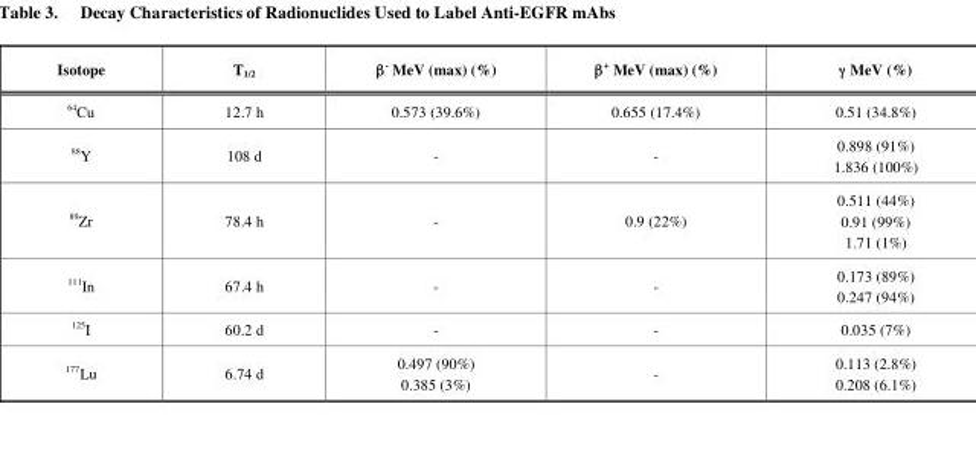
<table><thead><tr><td>Isotope</td><td>T<sub>1/2</sub></td><td>β<sup>-</sup> MeV (max) (%)</td><td>β<sup>+</sup> MeV (max) (%)</td><td>γ MeV (%)</td></tr></thead><tbody><tr><td><sup>64</sup>Cu</td><td>12.7 h</td><td>0.573 (39.6%)</td><td>0.655 (17.4%)</td><td>0.51 (34.8%)</td></tr><tr><td><sup>88</sup>Y</td><td>108 d</td><td>-</td><td>-</td><td>0.898 (91%) 1.836 (100%)</td></tr><tr><td><sup>89</sup>Zr</td><td>78.4 h</td><td>-</td><td>0.9 (22%)</td><td>0.511 (44%) 0.91 (99%) 1.71 (1%)</td></tr><tr><td><sup>111</sup>In</td><td>67.4 h</td><td>-</td><td>-</td><td>0.173 (89%) 0.247 (94%)</td></tr><tr><td><sup>125</sup>I</td><td>60.2 d</td><td>-</td><td>-</td><td>0.035 (7%)</td></tr><tr><td><sup>177</sup>Lu</td><td>6.74 d</td><td>0.497 (90%) 0.385 (3%)</td><td>-</td><td>0.113 (2.8%) 0.208 (6.1%)</td></tr></tbody></table>